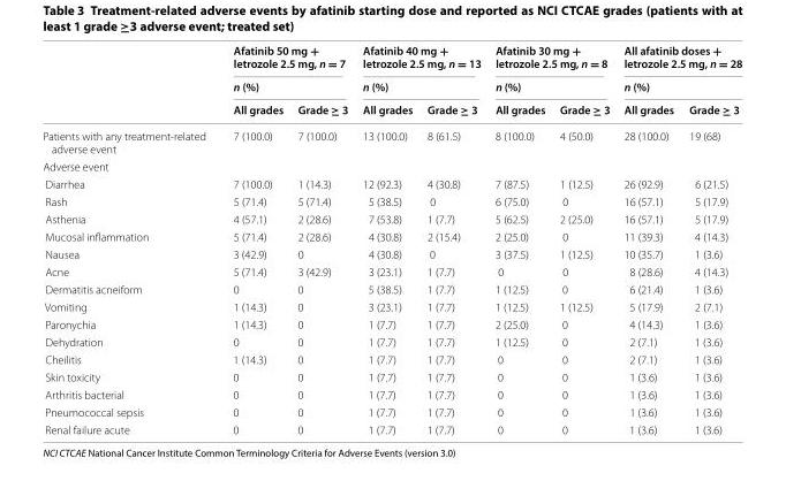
<table><thead><tr><td rowspan="3"></td><td rowspan="2" colspan="2">Afatinib 50 mg + letrozole 2.5 mg, n = 7 n (%)</td><td rowspan="2" colspan="2">Afatinib 40 mg + letrozole 2.5 mg, n = 13 n (%)</td><td rowspan="2" colspan="2">Afatinib 30 mg + letrozole 2.5 mg, n = 8 n (%)</td><td rowspan="2" colspan="2">All afatinib doses + letrozole 2.5 mg, n = 28 n (%)</td></tr><tr></tr><tr><td>All grades</td><td>Grade ≥ 3</td><td>All grades</td><td>Grade ≥ 3</td><td>All grades</td><td>Grade ≥ 3</td><td>All grades</td><td>Grade ≥ 3</td></tr></thead><tbody><tr><td>Patients with any treatment‑related adverse event</td><td>7 (100.0)</td><td>7 (100.0)</td><td>13 (100.0)</td><td>8 (61.5)</td><td>8 (100.0)</td><td>4 (50.0)</td><td>28 (100.0)</td><td>19 (68)</td></tr><tr><td colspan="9">Adverse event</td></tr><tr><td>Diarrhea</td><td>7 (100.0)</td><td>1 (14.3)</td><td>12 (92.3)</td><td>4 (30.8)</td><td>7 (87.5)</td><td>1 (12.5)</td><td>26 (92.9)</td><td>6 (21.5)</td></tr><tr><td>Rash</td><td>5 (71.4)</td><td>5 (71.4)</td><td>5 (38.5)</td><td>0</td><td>6 (75.0)</td><td>0</td><td>16 (57.1)</td><td>5 (17.9)</td></tr><tr><td>Asthenia</td><td>4 (57.1)</td><td>2 (28.6)</td><td>7 (53.8)</td><td>1 (7.7)</td><td>5 (62.5)</td><td>2 (25.0)</td><td>16 (57.1)</td><td>5 (17.9)</td></tr><tr><td>Mucosal inflammation</td><td>5 (71.4)</td><td>2 (28.6)</td><td>4 (30.8)</td><td>2 (15.4)</td><td>2 (25.0)</td><td>0</td><td>11 (39.3)</td><td>4 (14.3)</td></tr><tr><td>Nausea</td><td>3 (42.9)</td><td>0</td><td>4 (30.8)</td><td>0</td><td>3 (37.5)</td><td>1 (12.5)</td><td>10 (35.7)</td><td>1 (3.6)</td></tr><tr><td>Acne</td><td>5 (71.4)</td><td>3 (42.9)</td><td>3 (23.1)</td><td>1 (7.7)</td><td>0</td><td>0</td><td>8 (28.6)</td><td>4 (14.3)</td></tr><tr><td>Dermatitis acneiform</td><td>0</td><td>0</td><td>5 (38.5)</td><td>1 (7.7)</td><td>1 (12.5)</td><td>0</td><td>6 (21.4)</td><td>1 (3.6)</td></tr><tr><td>Vomiting</td><td>1 (14.3)</td><td>0</td><td>3 (23.1)</td><td>1 (7.7)</td><td>1 (12.5)</td><td>1 (12.5)</td><td>5 (17.9)</td><td>2 (7.1)</td></tr><tr><td>Paronychia</td><td>1 (14.3)</td><td>0</td><td>1 (7.7)</td><td>1 (7.7)</td><td>2 (25.0)</td><td>0</td><td>4 (14.3)</td><td>1 (3.6)</td></tr><tr><td>Dehydration</td><td>0</td><td>0</td><td>1 (7.7)</td><td>1 (7.7)</td><td>1 (12.5)</td><td>0</td><td>2 (7.1)</td><td>1 (3.6)</td></tr><tr><td>Cheilitis</td><td>1 (14.3)</td><td>0</td><td>1 (7.7)</td><td>1 (7.7)</td><td>0</td><td>0</td><td>2 (7.1)</td><td>1 (3.6)</td></tr><tr><td>Skin toxicity</td><td>0</td><td>0</td><td>1 (7.7)</td><td>1 (7.7)</td><td>0</td><td>0</td><td>1 (3.6)</td><td>1 (3.6)</td></tr><tr><td>Arthritis bacterial</td><td>0</td><td>0</td><td>1 (7.7)</td><td>1 (7.7)</td><td>0</td><td>0</td><td>1 (3.6)</td><td>1 (3.6)</td></tr><tr><td>Pneumococcal sepsis</td><td>0</td><td>0</td><td>1 (7.7)</td><td>1 (7.7)</td><td>0</td><td>0</td><td>1 (3.6)</td><td>1 (3.6)</td></tr><tr><td>Renal failure acute</td><td>0</td><td>0</td><td>1 (7.7)</td><td>1 (7.7)</td><td>0</td><td>0</td><td>1 (3.6)</td><td>1 (3.6)</td></tr></tbody></table>